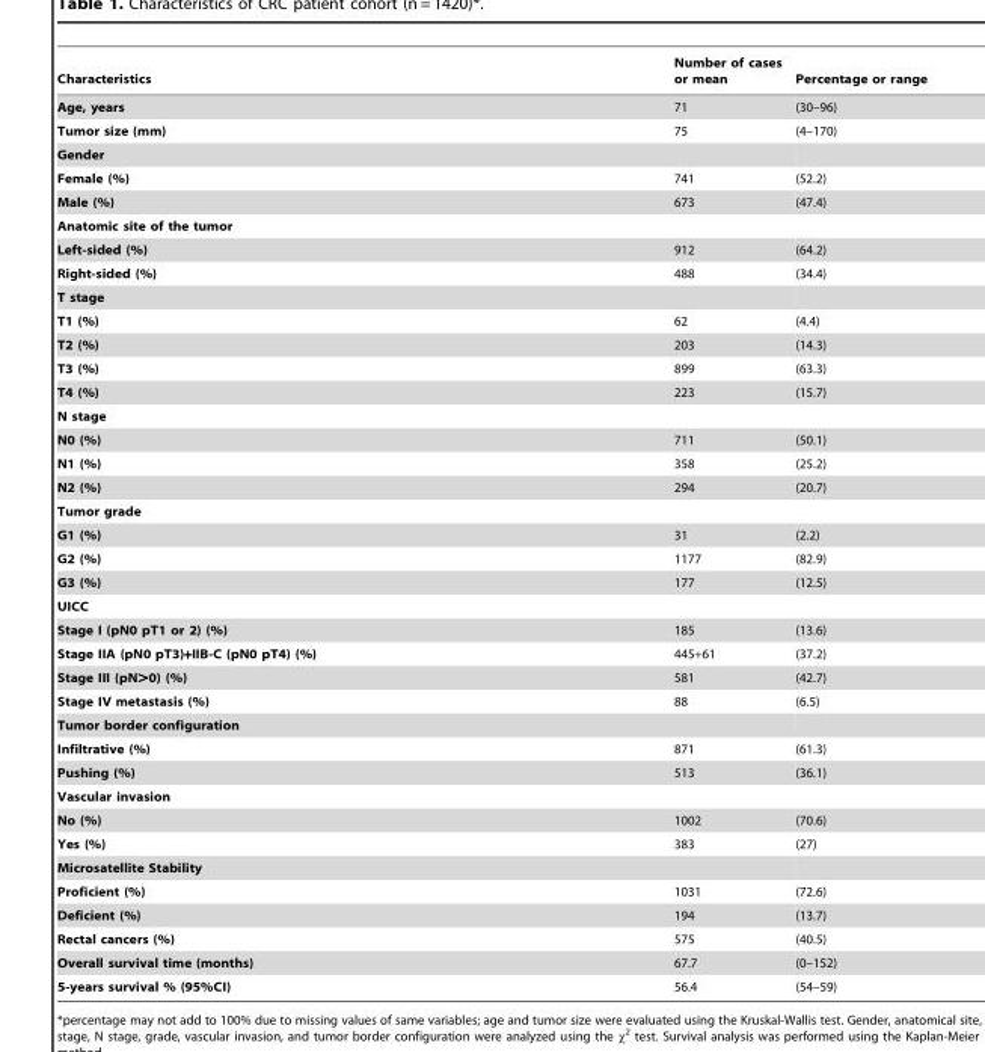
<table><thead><tr><td>Characteristics</td><td>Number of cases or mean</td><td>Percentage or range</td></tr></thead><tbody><tr><td>Age, years</td><td>71</td><td>(30–96)</td></tr><tr><td>Tumor size (mm)</td><td>75</td><td>(4–170)</td></tr><tr><td colspan="3">Gender</td></tr><tr><td>Female (%)</td><td>741</td><td>(52.2)</td></tr><tr><td>Male (%)</td><td>673</td><td>(47.4)</td></tr><tr><td colspan="3">Anatomic site of the tumor</td></tr><tr><td>Left-sided (%)</td><td>912</td><td>(64.2)</td></tr><tr><td>Right-sided (%)</td><td>488</td><td>(34.4)</td></tr><tr><td colspan="3">T stage</td></tr><tr><td>T1 (%)</td><td>62</td><td>(4.4)</td></tr><tr><td>T2 (%)</td><td>203</td><td>(14.3)</td></tr><tr><td>T3 (%)</td><td>899</td><td>(63.3)</td></tr><tr><td>T4 (%)</td><td>223</td><td>(15.7)</td></tr><tr><td colspan="3">N stage</td></tr><tr><td>N0 (%)</td><td>711</td><td>(50.1)</td></tr><tr><td>N1 (%)</td><td>358</td><td>(25.2)</td></tr><tr><td>N2 (%)</td><td>294</td><td>(20.7)</td></tr><tr><td colspan="3">Tumor grade</td></tr><tr><td>G1 (%)</td><td>31</td><td>(2.2)</td></tr><tr><td>G2 (%)</td><td>1177</td><td>(82.9)</td></tr><tr><td>G3 (%)</td><td>177</td><td>(12.5)</td></tr><tr><td colspan="3">UICC</td></tr><tr><td>Stage I (pN0 pT1 or 2) (%)</td><td>185</td><td>(13.6)</td></tr><tr><td>Stage IIA (pN0 pT3)+IIB-C (pN0 pT4) (%)</td><td>445+61</td><td>(37.2)</td></tr><tr><td>Stage III (pN&gt;0) (%)</td><td>581</td><td>(42.7)</td></tr><tr><td>Stage IV metastasis (%)</td><td>88</td><td>(6.5)</td></tr><tr><td colspan="3">Tumor border configuration</td></tr><tr><td>Infiltrative (%)</td><td>871</td><td>(61.3)</td></tr><tr><td>Pushing (%)</td><td>513</td><td>(36.1)</td></tr><tr><td colspan="3">Vascular invasion</td></tr><tr><td>No (%)</td><td>1002</td><td>(70.6)</td></tr><tr><td>Yes (%)</td><td>383</td><td>(27)</td></tr><tr><td colspan="3">Microsatellite Stability</td></tr><tr><td>Proficient (%)</td><td>1031</td><td>(72.6)</td></tr><tr><td>Deficient (%)</td><td>194</td><td>(13.7)</td></tr><tr><td>Rectal cancers (%)</td><td>575</td><td>(40.5)</td></tr><tr><td>Overall survival time (months)</td><td>67.7</td><td>(0–152)</td></tr><tr><td>5-years survival % (95%CI)</td><td>56.4</td><td>(54–59)</td></tr></tbody></table>